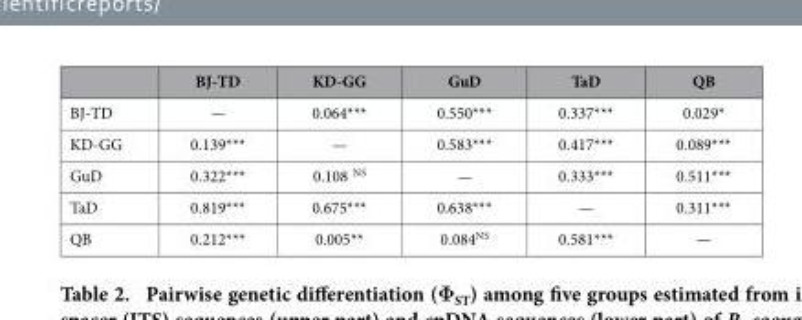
<table><thead><tr><td></td><td>BJ-TD</td><td>KD-GG</td><td>GuD</td><td>TaD</td><td>QB</td></tr></thead><tbody><tr><td>BJ-TD</td><td>—</td><td>0.064***</td><td>0.550***</td><td>0.337***</td><td>0.029*</td></tr><tr><td>KD-GG</td><td>0.139***</td><td>—</td><td>0.583***</td><td>0.417***</td><td>0.089***</td></tr><tr><td>GuD</td><td>0.322***</td><td>0.108 <sup>NS</sup></td><td>—</td><td>0.333***</td><td>0.511***</td></tr><tr><td>TaD</td><td>0.819***</td><td>0.675***</td><td>0.638***</td><td>—</td><td>0.311***</td></tr><tr><td>QB</td><td>0.212***</td><td>0.005**</td><td>0.084<sup>NS</sup></td><td>0.581***</td><td>—</td></tr></tbody></table>